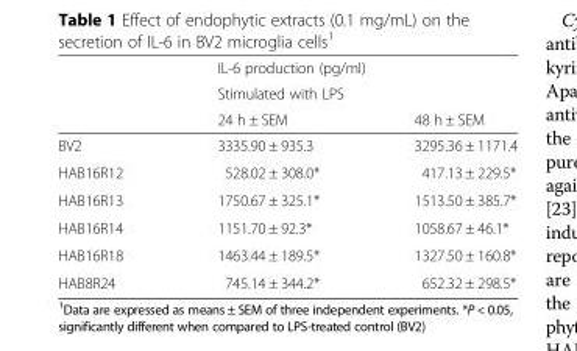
<table><thead><tr><td rowspan="3"></td><td rowspan="2" colspan="2">IL-6 production (pg/ml) Stimulated with LPS</td></tr><tr></tr><tr><td>24 h ± SEM</td><td>48 h ± SEM</td></tr></thead><tbody><tr><td>BV2</td><td>3335.90 ± 935.3</td><td>3295.36 ± 1171.4</td></tr><tr><td>HAB16R12</td><td>528.02 ± 308.0*</td><td>417.13 ± 229.5*</td></tr><tr><td>HAB16R13</td><td>1750.67 ± 325.1*</td><td>1513.50 ± 385.7*</td></tr><tr><td>HAB16R14</td><td>1151.70 ± 92.3*</td><td>1058.67 ± 46.1*</td></tr><tr><td>HAB16R18</td><td>1463.44 ± 189.5*</td><td>1327.50 ± 160.8*</td></tr><tr><td>HAB8R24</td><td>745.14 ± 344.2*</td><td>652.32 ± 298.5*</td></tr></tbody></table>